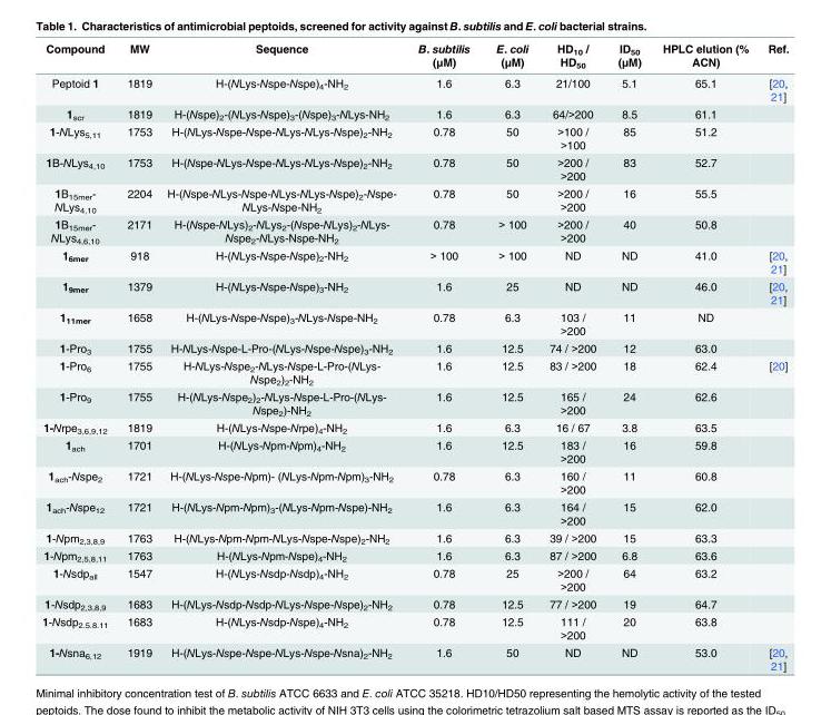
<table><thead><tr><td>Compound</td><td>MW</td><td>Sequence</td><td>B. subtilis (μM)</td><td>E. coli (μM)</td><td>HD<sub>10</sub> / HD<sub>50</sub></td><td>ID<sub>50</sub> (μM)</td><td>HPLC elution (% ACN)</td><td>Ref.</td></tr></thead><tbody><tr><td>Peptoid 1</td><td>1819</td><td>H-(NLys-Nspe-Nspe)<sub>4</sub>-NH<sub>2</sub></td><td>1.6</td><td>6.3</td><td>21/100</td><td>5.1</td><td>65.1</td><td>[20, 21]</td></tr><tr><td>1<sub>scr</sub></td><td>1819</td><td>H-(Nspe)<sub>2</sub>-(NLys-Nspe)<sub>3</sub>-(Nspe)<sub>3</sub>-NLys-NH<sub>2</sub></td><td>1.6</td><td>6.3</td><td>64/&gt;200</td><td>8.5</td><td>61.1</td><td></td></tr><tr><td>1-NLys<sub>5,11</sub></td><td>1753</td><td>H-(NLys-Nspe-Nspe-NLys-NLys-Nspe)<sub>2</sub>-NH<sub>2</sub></td><td>0.78</td><td>50</td><td>&gt;100 / &gt;100</td><td>85</td><td>51.2</td><td></td></tr><tr><td>1B-NLys<sub>4,10</sub></td><td>1753</td><td>H-(Nspe-NLys-Nspe-NLys-NLys-Nspe)<sub>2</sub>-NH<sub>2</sub></td><td>0.78</td><td>50</td><td>&gt;200 / &gt;200</td><td>83</td><td>52.7</td><td></td></tr><tr><td>1B<sub>15mer</sub>- NLys<sub>4,10</sub></td><td>2204</td><td>H-(Nspe-NLys-Nspe-NLys-NLys-Nspe)<sub>2</sub>-Nspe- NLys-Nspe-NH<sub>2</sub></td><td>0.78</td><td>50</td><td>&gt;200 / &gt;200</td><td>16</td><td>55.5</td><td></td></tr><tr><td>1B<sub>15mer</sub>- NLys<sub>4,6,10</sub></td><td>2171</td><td>H-(Nspe-NLys)<sub>2</sub>-NLys<sub>2</sub>-(Nspe-NLys)<sub>2</sub>-NLys- Nspe<sub>2</sub>-NLys-Nspe-NH<sub>2</sub></td><td>0.78</td><td>&gt; 100</td><td>&gt;200 / &gt;200</td><td>40</td><td>50.8</td><td></td></tr><tr><td>1<sub>6mer</sub></td><td>918</td><td>H-(NLys-Nspe-Nspe)<sub>2</sub>-NH<sub>2</sub></td><td>&gt; 100</td><td>&gt; 100</td><td>ND</td><td>ND</td><td>41.0</td><td>[20, 21]</td></tr><tr><td>1<sub>9mer</sub></td><td>1379</td><td>H-(NLys-Nspe-Nspe)<sub>3</sub>-NH<sub>2</sub></td><td>1.6</td><td>25</td><td>ND</td><td>ND</td><td>46.0</td><td>[20, 21]</td></tr><tr><td>1<sub>11mer</sub></td><td>1658</td><td>H-(NLys-Nspe-Nspe)<sub>3</sub>-NLys-Nspe-NH<sub>2</sub></td><td>0.78</td><td>6.3</td><td>103 / &gt;200</td><td>11</td><td>ND</td><td></td></tr><tr><td>1-Pro<sub>3</sub></td><td>1755</td><td>H-NLys-Nspe-L-Pro-(NLys-Nspe-Nspe)<sub>3</sub>-NH<sub>2</sub></td><td>1.6</td><td>12.5</td><td>74 / &gt;200</td><td>12</td><td>63.0</td><td></td></tr><tr><td>1-Pro<sub>6</sub></td><td>1755</td><td>H-NLys-Nspe<sub>2</sub>-NLys-Nspe-L-Pro-(NLys- Nspe<sub>2</sub>)<sub>2</sub>-NH<sub>2</sub></td><td>1.6</td><td>12.5</td><td>83 / &gt;200</td><td>18</td><td>62.4</td><td>[20]</td></tr><tr><td>1-Pro<sub>9</sub></td><td>1755</td><td>H-(NLys-Nspe<sub>2</sub>)<sub>2</sub>-NLys-Nspe-L-Pro-(NLys- Nspe<sub>2</sub>)-NH<sub>2</sub></td><td>1.6</td><td>12.5</td><td>165 / &gt;200</td><td>24</td><td>62.6</td><td></td></tr><tr><td>1-Nrpe<sub>3,6,9,12</sub></td><td>1819</td><td>H-(NLys-Nspe-Nrpe)<sub>4</sub>-NH<sub>2</sub></td><td>1.6</td><td>6.3</td><td>16 / 67</td><td>3.8</td><td>63.5</td><td></td></tr><tr><td>1<sub>ach</sub></td><td>1701</td><td>H-(NLys-Npm-Npm)<sub>4</sub>-NH<sub>2</sub></td><td>1.6</td><td>12.5</td><td>183 / &gt;200</td><td>16</td><td>59.8</td><td></td></tr><tr><td>1<sub>ach</sub>-Nspe<sub>2</sub></td><td>1721</td><td>H-(NLys-Nspe-Npm)- (NLys-Npm-Npm)<sub>3</sub>-NH<sub>2</sub></td><td>0.78</td><td>6.3</td><td>160 / &gt;200</td><td>11</td><td>60.8</td><td></td></tr><tr><td>1<sub>ach</sub>-Nspe<sub>12</sub></td><td>1721</td><td>H-(NLys-Npm-Npm)<sub>3</sub>-(NLys-Npm-Nspe)-NH<sub>2</sub></td><td>1.6</td><td>6.3</td><td>164 / &gt;200</td><td>15</td><td>62.0</td><td></td></tr><tr><td>1-Npm<sub>2,3,8,9</sub></td><td>1763</td><td>H-(NLys-Npm-Npm-NLys-Nspe-Nspe)<sub>2</sub>-NH<sub>2</sub></td><td>1.6</td><td>6.3</td><td>39 / &gt;200</td><td>15</td><td>63.3</td><td></td></tr><tr><td>1-Npm<sub>2,5,8,11</sub></td><td>1763</td><td>H-(NLys-Npm-Nspe)<sub>4</sub>-NH<sub>2</sub></td><td>1.6</td><td>6.3</td><td>87 / &gt;200</td><td>6.8</td><td>63.6</td><td></td></tr><tr><td>1-Nsdp<sub>all</sub></td><td>1547</td><td>H-(NLys-Nsdp-Nsdp)<sub>4</sub>-NH<sub>2</sub></td><td>0.78</td><td>25</td><td>&gt;200 / &gt;200</td><td>64</td><td>63.2</td><td></td></tr><tr><td>1-Nsdp<sub>2,3,8,9</sub></td><td>1683</td><td>H-(NLys-Nsdp-Nsdp-NLys-Nspe-Nspe)<sub>2</sub>-NH<sub>2</sub></td><td>0.78</td><td>12.5</td><td>77 / &gt;200</td><td>19</td><td>64.7</td><td></td></tr><tr><td>1-Nsdp<sub>2.5.8.11</sub></td><td>1683</td><td>H-(NLys-Nsdp-Nspe)<sub>4</sub>-NH<sub>2</sub></td><td>0.78</td><td>12.5</td><td>111 / &gt;200</td><td>20</td><td>63.8</td><td></td></tr><tr><td>1-Nsna<sub>6,12</sub></td><td>1919</td><td>H-(NLys-Nspe-Nspe-NLys-Nspe-Nsna)<sub>2</sub>-NH<sub>2</sub></td><td>1.6</td><td>50</td><td>ND</td><td>ND</td><td>53.0</td><td>[20, 21]</td></tr></tbody></table>